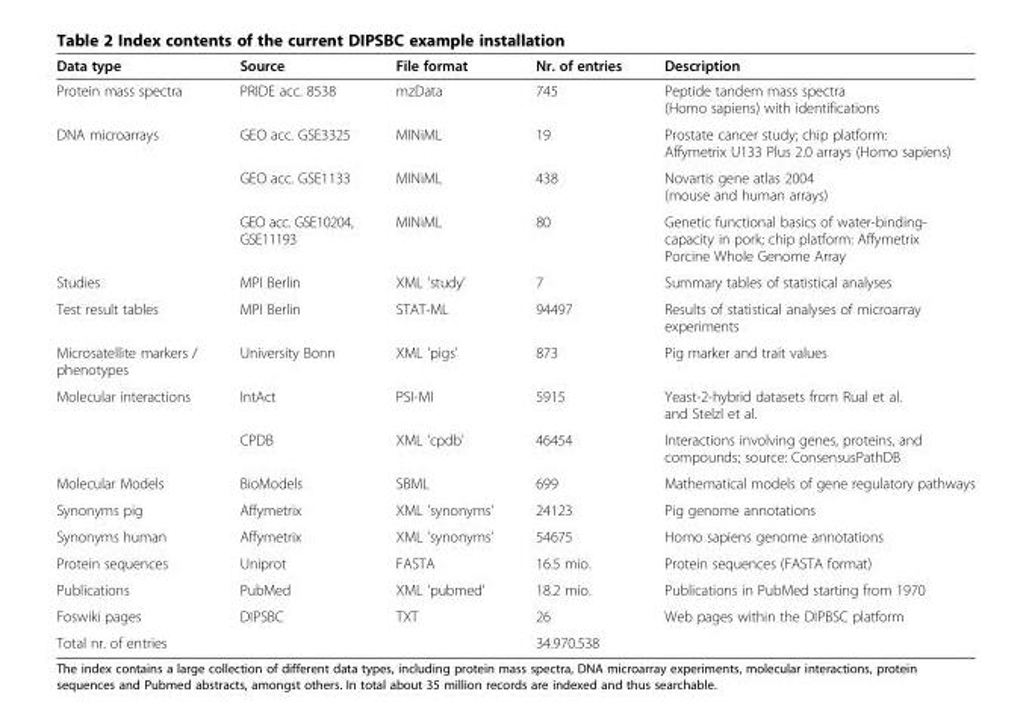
<table><thead><tr><td>Data type</td><td>Source</td><td>File format</td><td>Nr. of entries</td><td>Description</td></tr></thead><tbody><tr><td>Protein mass spectra</td><td>PRIDE acc. 8538</td><td>mzData</td><td>745</td><td>Peptide tandem mass spectra (Homo sapiens) with identifications</td></tr><tr><td rowspan="3">DNA microarrays</td><td>GEO acc. GSE3325</td><td>MINiML</td><td>19</td><td>Prostate cancer study; chip platform: Affymetrix U133 Plus 2.0 arrays (Homo sapiens)</td></tr><tr><td>GEO acc. GSE1133</td><td>MINiML</td><td>438</td><td>Novartis gene atlas 2004 (mouse and human arrays)</td></tr><tr><td>GEO acc. GSE10204, GSE11193</td><td>MINiML</td><td>80</td><td>Genetic functional basics of water-binding- capacity in pork; chip platform: Affymetrix Porcine Whole Genome Array</td></tr><tr><td>Studies</td><td>MPI Berlin</td><td>XML &#x27;study&#x27;</td><td>7</td><td>Summary tables of statistical analyses</td></tr><tr><td>Test result tables</td><td>MPI Berlin</td><td>STAT-ML</td><td>94497</td><td>Results of statistical analyses of microarray experiments</td></tr><tr><td>Microsatellite markers / phenotypes</td><td>University Bonn</td><td>XML &#x27;pigs&#x27;</td><td>873</td><td>Pig marker and trait values</td></tr><tr><td rowspan="2">Molecular interactions</td><td>IntAct</td><td>PSI-MI</td><td>5915</td><td>Yeast-2-hybrid datasets from Rual et al. and Stelzl et al.</td></tr><tr><td>CPDB</td><td>XML &#x27;cpdb&#x27;</td><td>46454</td><td>Interactions involving genes, proteins, and compounds; source: ConsensusPathDB</td></tr><tr><td>Molecular Models</td><td>BioModels</td><td>SBML</td><td>699</td><td>Mathematical models of gene regulatory pathways</td></tr><tr><td>Synonyms pig</td><td>Affymetrix</td><td>XML &#x27;synonyms&#x27;</td><td>24123</td><td>Pig genome annotations</td></tr><tr><td>Synonyms human</td><td>Affymetrix</td><td>XML &#x27;synonyms&#x27;</td><td>54675</td><td>Homo sapiens genome annotations</td></tr><tr><td>Protein sequences</td><td>Uniprot</td><td>FASTA</td><td>16.5 mio.</td><td>Protein sequences (FASTA format)</td></tr><tr><td>Publications</td><td>PubMed</td><td>XML &#x27;pubmed&#x27;</td><td>18.2 mio.</td><td>Publications in PubMed starting from 1970</td></tr><tr><td>Foswiki pages</td><td>DIPSBC</td><td>TXT</td><td>26</td><td>Web pages within the DIPBSC platform</td></tr><tr><td>Total nr. of entries</td><td></td><td></td><td>34.970.538</td><td></td></tr></tbody></table>